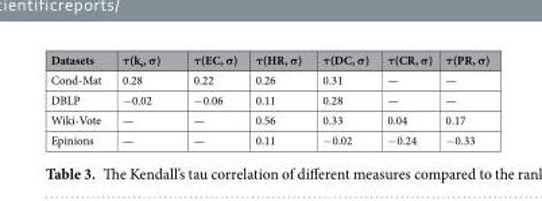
<table><thead><tr><td>Datasets</td><td>τ(k<sub>s</sub>, σ)</td><td>τ(EC, σ)</td><td>τ(HR, σ)</td><td>τ(DC, σ)</td><td>τ(CR, σ)</td><td>τ(PR, σ)</td></tr></thead><tbody><tr><td>Cond-Mat</td><td>0.28</td><td>0.22</td><td>0.26</td><td>0.31</td><td>—</td><td>—</td></tr><tr><td>DBLP</td><td>−0.02</td><td>−0.06</td><td>0.11</td><td>0.28</td><td>—</td><td>—</td></tr><tr><td>Wiki-Vote</td><td>—</td><td>—</td><td>0.56</td><td>0.33</td><td>0.04</td><td>0.17</td></tr><tr><td>Epinions</td><td>—</td><td>—</td><td>0.11</td><td>−0.02</td><td>−0.24</td><td>−0.33</td></tr></tbody></table>